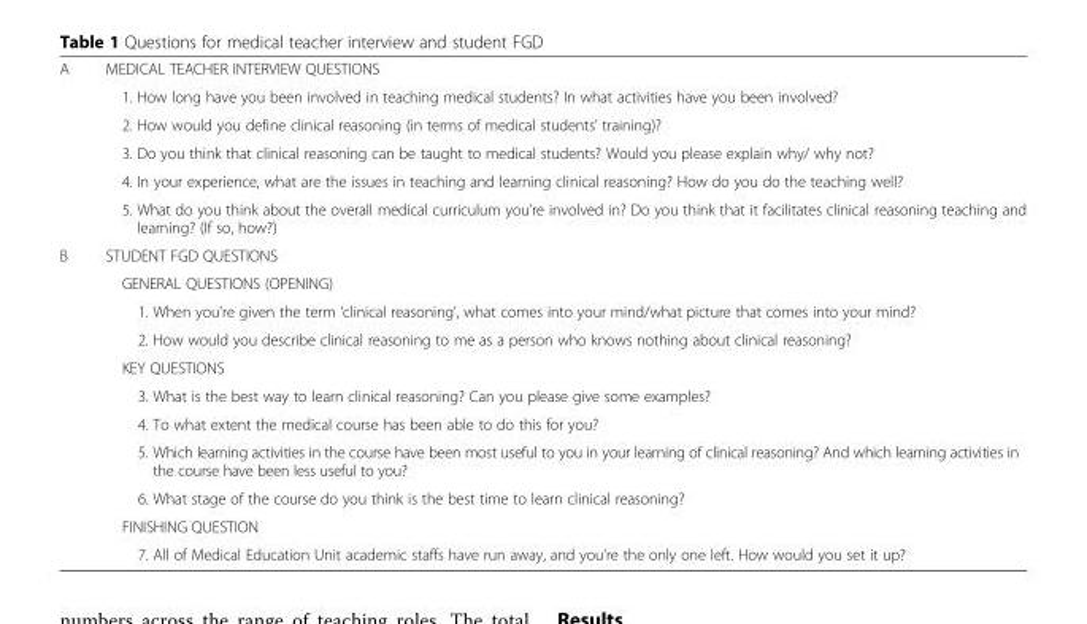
<table><tbody><tr><td rowspan="6">A</td><td>MEDICAL TEACHER INTERVIEW QUESTIONS</td></tr><tr><td>1. How long have you been involved in teaching medical students? In what activities have you been involved?</td></tr><tr><td>2. How would you define clinical reasoning (in terms of medical students’ training)?</td></tr><tr><td>3. Do you think that clinical reasoning can be taught to medical students? Would you please explain why/ why not?</td></tr><tr><td>4. In your experience, what are the issues in teaching and learning clinical reasoning? How do you do the teaching well?</td></tr><tr><td>5. What do you think about the overall medical curriculum you’re involved in? Do you think that it facilitates clinical reasoning teaching and learning? (If so, how?)</td></tr><tr><td rowspan="11">B</td><td>STUDENT FGD QUESTIONS</td></tr><tr><td>GENERAL QUESTIONS (OPENING)</td></tr><tr><td>1. When you’re given the term ‘clinical reasoning’, what comes into your mind/what picture that comes into your mind?</td></tr><tr><td>2. How would you describe clinical reasoning to me as a person who knows nothing about clinical reasoning?</td></tr><tr><td>KEY QUESTIONS</td></tr><tr><td>3. What is the best way to learn clinical reasoning? Can you please give some examples?</td></tr><tr><td>4. To what extent the medical course has been able to do this for you?</td></tr><tr><td>5. Which learning activities in the course have been most useful to you in your learning of clinical reasoning? And which learning activities in the course have been less useful to you?</td></tr><tr><td>6. What stage of the course do you think is the best time to learn clinical reasoning?</td></tr><tr><td>FINISHING QUESTION</td></tr><tr><td>7. All of Medical Education Unit academic staffs have run away, and you’re the only one left. How would you set it up?</td></tr></tbody></table>